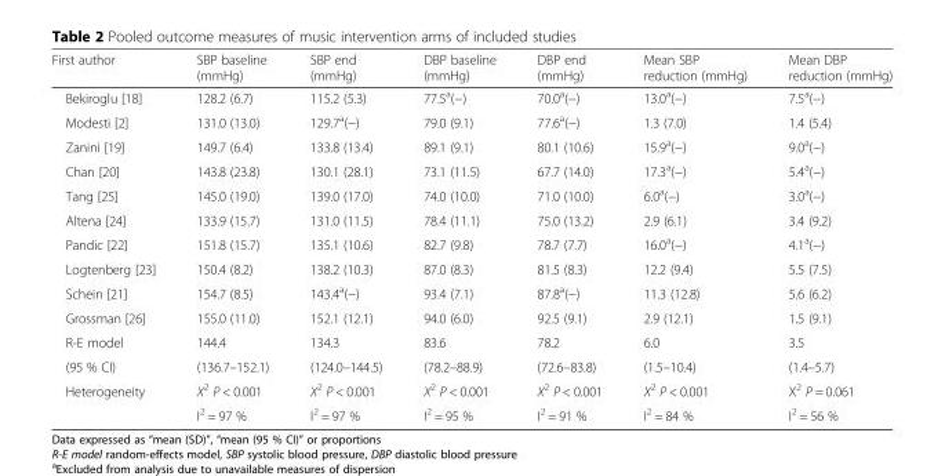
<table><thead><tr><td>First author</td><td>SBP baseline (mmHg)</td><td>SBP end (mmHg)</td><td>DBP baseline (mmHg)</td><td>DBP end (mmHg)</td><td>Mean SBP reduction (mmHg)</td><td>Mean DBP reduction (mmHg)</td></tr></thead><tbody><tr><td>Bekiroglu [18]</td><td>128.2 (6.7)</td><td>115.2 (5.3)</td><td>77.5<sup>a</sup>(−)</td><td>70.0<sup>a</sup>(−)</td><td>13.0<sup>a</sup>(−)</td><td>7.5<sup>a</sup>(−)</td></tr><tr><td>Modesti [2]</td><td>131.0 (13.0)</td><td>129.7<sup>a</sup>(−)</td><td>79.0 (9.1)</td><td>77.6<sup>a</sup>(−)</td><td>1.3 (7.0)</td><td>1.4 (5.4)</td></tr><tr><td>Zanini [19]</td><td>149.7 (6.4)</td><td>133.8 (13.4)</td><td>89.1 (9.1)</td><td>80.1 (10.6)</td><td>15.9<sup>a</sup>(−)</td><td>9.0<sup>a</sup>(−)</td></tr><tr><td>Chan [20]</td><td>143.8 (23.8)</td><td>130.1 (28.1)</td><td>73.1 (11.5)</td><td>67.7 (14.0)</td><td>17.3<sup>a</sup>(−)</td><td>5.4<sup>a</sup>(−)</td></tr><tr><td>Tang [25]</td><td>145.0 (19.0)</td><td>139.0 (17.0)</td><td>74.0 (10.0)</td><td>71.0 (10.0)</td><td>6.0<sup>a</sup>(−)</td><td>3.0<sup>a</sup>(−)</td></tr><tr><td>Altena [24]</td><td>133.9 (15.7)</td><td>131.0 (11.5)</td><td>78.4 (11.1)</td><td>75.0 (13.2)</td><td>2.9 (6.1)</td><td>3.4 (9.2)</td></tr><tr><td>Pandic [22]</td><td>151.8 (15.7)</td><td>135.1 (10.6)</td><td>82.7 (9.8)</td><td>78.7 (7.7)</td><td>16.0<sup>a</sup>(−)</td><td>4.1<sup>a</sup>(−)</td></tr><tr><td>Logtenberg [23]</td><td>150.4 (8.2)</td><td>138.2 (10.3)</td><td>87.0 (8.3)</td><td>81.5 (8.3)</td><td>12.2 (9.4)</td><td>5.5 (7.5)</td></tr><tr><td>Schein [21]</td><td>154.7 (8.5)</td><td>143.4<sup>a</sup>(−)</td><td>93.4 (7.1)</td><td>87.8<sup>a</sup>(−)</td><td>11.3 (12.8)</td><td>5.6 (6.2)</td></tr><tr><td>Grossman [26]</td><td>155.0 (11.0)</td><td>152.1 (12.1)</td><td>94.0 (6.0)</td><td>92.5 (9.1)</td><td>2.9 (12.1)</td><td>1.5 (9.1)</td></tr><tr><td>R-E model</td><td>144.4</td><td>134.3</td><td>83.6</td><td>78.2</td><td>6.0</td><td>3.5</td></tr><tr><td>(95 % CI)</td><td>(136.7–152.1)</td><td>(124.0–144.5)</td><td>(78.2–88.9)</td><td>(72.6–83.8)</td><td>(1.5–10.4)</td><td>(1.4–5.7)</td></tr><tr><td rowspan="2">Heterogeneity</td><td>X<sup>2</sup> P &lt; 0.001</td><td>X<sup>2</sup> P &lt; 0.001</td><td>X<sup>2</sup> P &lt; 0.001</td><td>X<sup>2</sup> P &lt; 0.001</td><td>X<sup>2</sup> P &lt; 0.001</td><td>X<sup>2</sup> P = 0.061</td></tr><tr><td>I<sup>2</sup> = 97 %</td><td>I<sup>2</sup> = 97 %</td><td>I<sup>2</sup> = 95 %</td><td>I<sup>2</sup> = 91 %</td><td>I<sup>2</sup> = 84 %</td><td>I<sup>2</sup> = 56 %</td></tr></tbody></table>